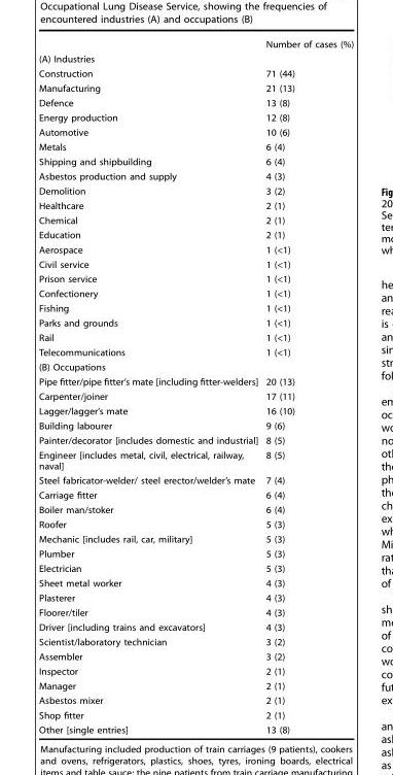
<table><thead><tr><td></td><td>Number of cases (%)</td></tr></thead><tbody><tr><td colspan="2">(A) Industries</td></tr><tr><td>Construction</td><td>71 (44)</td></tr><tr><td>Manufacturing</td><td>21 (13)</td></tr><tr><td>Defence</td><td>13 (8)</td></tr><tr><td>Energy production</td><td>12 (8)</td></tr><tr><td>Automotive</td><td>10 (6)</td></tr><tr><td>Metals</td><td>6 (4)</td></tr><tr><td>Shipping and shipbuilding</td><td>6 (4)</td></tr><tr><td>Asbestos production and supply</td><td>4 (3)</td></tr><tr><td>Demolition</td><td>3 (2)</td></tr><tr><td>Healthcare</td><td>2 (1)</td></tr><tr><td>Chemical</td><td>2 (1)</td></tr><tr><td>Education</td><td>2 (1)</td></tr><tr><td>Aerospace</td><td>1 (&lt;1)</td></tr><tr><td>Civil service</td><td>1 (&lt;1)</td></tr><tr><td>Prison service</td><td>1 (&lt;1)</td></tr><tr><td>Confectionery</td><td>1 (&lt;1)</td></tr><tr><td>Fishing</td><td>1 (&lt;1)</td></tr><tr><td>Parks and grounds</td><td>1 (&lt;1)</td></tr><tr><td>Rail</td><td>1 (&lt;1)</td></tr><tr><td>Telecommunications</td><td>1 (&lt;1)</td></tr><tr><td colspan="2">(B) Occupations</td></tr><tr><td>Pipe fitter/pipe fitter’s mate [including fitter-welders]</td><td>20 (13)</td></tr><tr><td>Carpenter/joiner</td><td>17 (11)</td></tr><tr><td>Lagger/lagger’s mate</td><td>16 (10)</td></tr><tr><td>Building labourer</td><td>9 (6)</td></tr><tr><td>Painter/decorator [includes domestic and industrial]</td><td>8 (5)</td></tr><tr><td>Engineer [includes metal, civil, electrical, railway, naval]</td><td>8 (5)</td></tr><tr><td>Steel fabricator-welder/ steel erector/welder’s mate</td><td>7 (4)</td></tr><tr><td>Carriage fitter</td><td>6 (4)</td></tr><tr><td>Boiler man/stoker</td><td>6 (4)</td></tr><tr><td>Roofer</td><td>5 (3)</td></tr><tr><td>Mechanic [includes rail, car, military]</td><td>5 (3)</td></tr><tr><td>Plumber</td><td>5 (3)</td></tr><tr><td>Electrician</td><td>5 (3)</td></tr><tr><td>Sheet metal worker</td><td>4 (3)</td></tr><tr><td>Plasterer</td><td>4 (3)</td></tr><tr><td>Floorer/tiler</td><td>4 (3)</td></tr><tr><td>Driver [including trains and excavators]</td><td>4 (3)</td></tr><tr><td>Scientist/laboratory technician</td><td>3 (2)</td></tr><tr><td>Assembler</td><td>3 (2)</td></tr><tr><td>Inspector</td><td>2 (1)</td></tr><tr><td>Manager</td><td>2 (1)</td></tr><tr><td>Asbestos mixer</td><td>2 (1)</td></tr><tr><td>Shop fitter</td><td>2 (1)</td></tr><tr><td>Other [single entries]</td><td>13 (8)</td></tr></tbody></table>